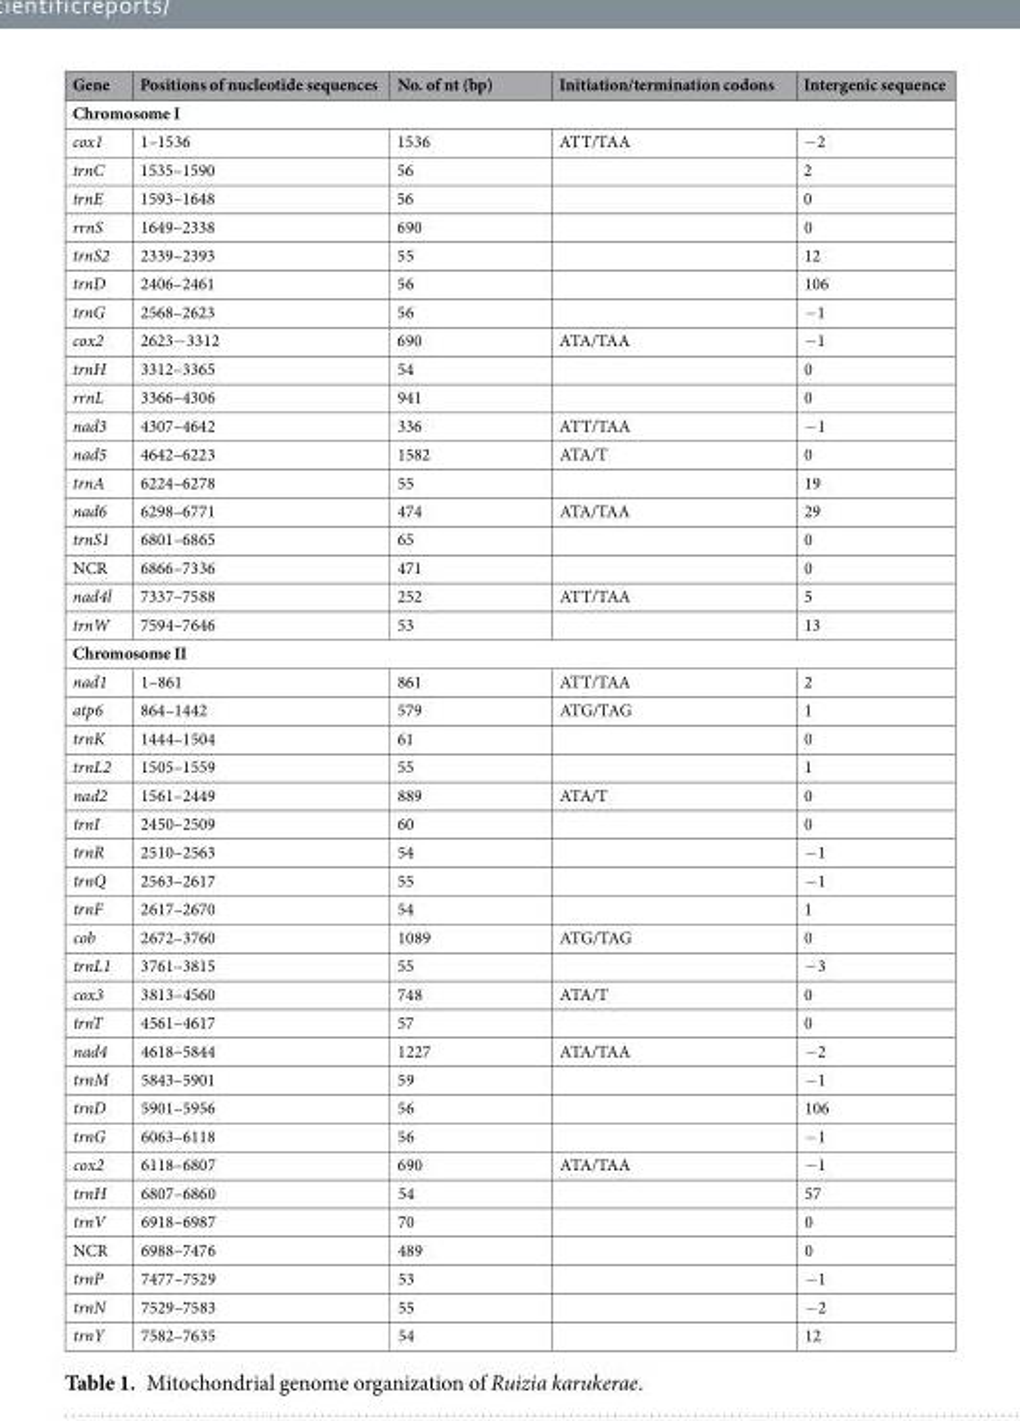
<table><thead><tr><td>Gene</td><td>Positions of nucleotide sequences</td><td>No. of nt (bp)</td><td>Initiation/termination codons</td><td>Intergenic sequence</td></tr></thead><tbody><tr><td colspan="5">Chromosome I</td></tr><tr><td>cox1</td><td>1–1536</td><td>1536</td><td>ATT/TAA</td><td>−2</td></tr><tr><td>trnC</td><td>1535–1590</td><td>56</td><td></td><td>2</td></tr><tr><td>trnE</td><td>1593–1648</td><td>56</td><td></td><td>0</td></tr><tr><td>rrnS</td><td>1649–2338</td><td>690</td><td></td><td>0</td></tr><tr><td>trnS2</td><td>2339–2393</td><td>55</td><td></td><td>12</td></tr><tr><td>trnD</td><td>2406–2461</td><td>56</td><td></td><td>106</td></tr><tr><td>trnG</td><td>2568–2623</td><td>56</td><td></td><td>−1</td></tr><tr><td>cox2</td><td>2623−3312</td><td>690</td><td>ATA/TAA</td><td>−1</td></tr><tr><td>trnH</td><td>3312–3365</td><td>54</td><td></td><td>0</td></tr><tr><td>rrnL</td><td>3366–4306</td><td>941</td><td></td><td>0</td></tr><tr><td>nad3</td><td>4307–4642</td><td>336</td><td>ATT/TAA</td><td>−1</td></tr><tr><td>nad5</td><td>4642–6223</td><td>1582</td><td>ATA/T</td><td>0</td></tr><tr><td>trnA</td><td>6224–6278</td><td>55</td><td></td><td>19</td></tr><tr><td>nad6</td><td>6298–6771</td><td>474</td><td>ATA/TAA</td><td>29</td></tr><tr><td>trnS1</td><td>6801–6865</td><td>65</td><td></td><td>0</td></tr><tr><td>NCR</td><td>6866–7336</td><td>471</td><td></td><td>0</td></tr><tr><td>nad4l</td><td>7337–7588</td><td>252</td><td>ATT/TAA</td><td>5</td></tr><tr><td>trnW</td><td>7594–7646</td><td>53</td><td></td><td>13</td></tr><tr><td colspan="5">Chromosome II</td></tr><tr><td>nad1</td><td>1–861</td><td>861</td><td>ATT/TAA</td><td>2</td></tr><tr><td>atp6</td><td>864–1442</td><td>579</td><td>ATG/TAG</td><td>1</td></tr><tr><td>trnK</td><td>1444–1504</td><td>61</td><td></td><td>0</td></tr><tr><td>trnL2</td><td>1505–1559</td><td>55</td><td></td><td>1</td></tr><tr><td>nad2</td><td>1561–2449</td><td>889</td><td>ATA/T</td><td>0</td></tr><tr><td>trnI</td><td>2450–2509</td><td>60</td><td></td><td>0</td></tr><tr><td>trnR</td><td>2510–2563</td><td>54</td><td></td><td>−1</td></tr><tr><td>trnQ</td><td>2563–2617</td><td>55</td><td></td><td>−1</td></tr><tr><td>trnF</td><td>2617–2670</td><td>54</td><td></td><td>1</td></tr><tr><td>cob</td><td>2672–3760</td><td>1089</td><td>ATG/TAG</td><td>0</td></tr><tr><td>trnL1</td><td>3761–3815</td><td>55</td><td></td><td>−3</td></tr><tr><td>cox3</td><td>3813–4560</td><td>748</td><td>ATA/T</td><td>0</td></tr><tr><td>trnT</td><td>4561–4617</td><td>57</td><td></td><td>0</td></tr><tr><td>nad4</td><td>4618–5844</td><td>1227</td><td>ATA/TAA</td><td>−2</td></tr><tr><td>trnM</td><td>5843–5901</td><td>59</td><td></td><td>−1</td></tr><tr><td>trnD</td><td>5901–5956</td><td>56</td><td></td><td>106</td></tr><tr><td>trnG</td><td>6063–6118</td><td>56</td><td></td><td>−1</td></tr><tr><td>cox2</td><td>6118–6807</td><td>690</td><td>ATA/TAA</td><td>−1</td></tr><tr><td>trnH</td><td>6807–6860</td><td>54</td><td></td><td>57</td></tr><tr><td>trnV</td><td>6918–6987</td><td>70</td><td></td><td>0</td></tr><tr><td>NCR</td><td>6988–7476</td><td>489</td><td></td><td>0</td></tr><tr><td>trnP</td><td>7477–7529</td><td>53</td><td></td><td>−1</td></tr><tr><td>trnN</td><td>7529–7583</td><td>55</td><td></td><td>−2</td></tr><tr><td>trnY</td><td>7582–7635</td><td>54</td><td></td><td>12</td></tr></tbody></table>